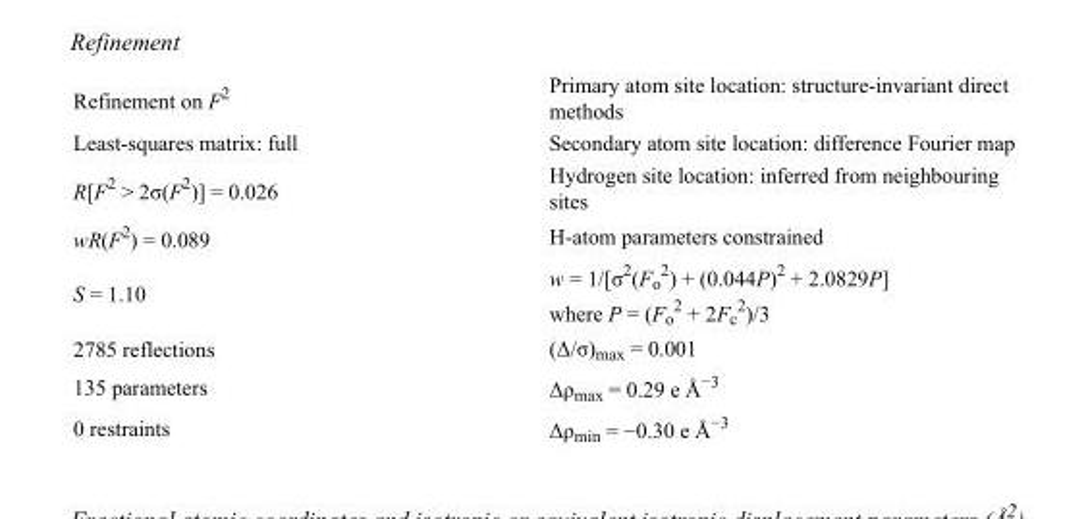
<table><tbody><tr><td>Refinement on F<sup>2</sup></td><td>Primary atom site location: structure-invariant direct methods</td></tr><tr><td>Least-squares matrix: full</td><td>Secondary atom site location: difference Fourier map</td></tr><tr><td>R[F<sup>2</sup> &gt; 2σ(F<sup>2</sup>)] = 0.026</td><td>Hydrogen site location: inferred from neighbouring sites</td></tr><tr><td>wR(F<sup>2</sup>) = 0.089</td><td>H-atom parameters constrained</td></tr><tr><td>S = 1.10</td><td>w = 1/[σ<sup>2</sup>(F<sub>o</sub> <sup>2</sup>) + (0.044P)<sup>2</sup> + 2.0829P] where P = (F<sub>o</sub> <sup>2</sup> + 2F<sub>c</sub> <sup>2</sup>)/3</td></tr><tr><td>2785 reflections</td><td>(Δ/σ)<sub>max</sub> = 0.001</td></tr><tr><td>135 parameters</td><td>Δρ<sub>max</sub> = 0.29 e Å<sup>−3</sup></td></tr><tr><td>0 restraints</td><td>Δρ<sub>min</sub> = −0.30 e Å<sup>−3</sup></td></tr></tbody></table>